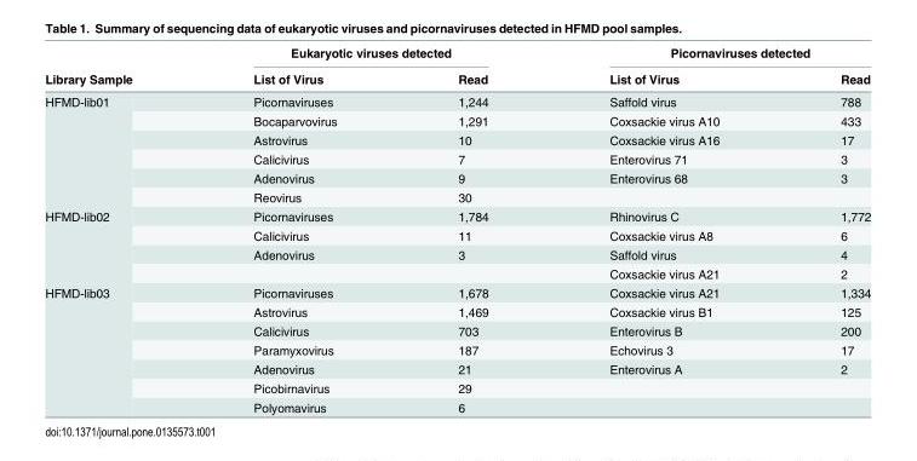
<table><thead><tr><td rowspan="2">Library Sample</td><td colspan="2">Eukaryotic viruses detected</td><td colspan="2">Picornaviruses detected</td></tr><tr><td>List of Virus</td><td>Read</td><td>List of Virus</td><td>Read</td></tr></thead><tbody><tr><td rowspan="6">HFMD-lib01</td><td>Picornaviruses</td><td>1,244</td><td>Saffold virus</td><td>788</td></tr><tr><td>Bocaparvovirus</td><td>1,291</td><td>Coxsackie virus A10</td><td>433</td></tr><tr><td>Astrovirus</td><td>10</td><td>Coxsackie virus A16</td><td>17</td></tr><tr><td>Calicivirus</td><td>7</td><td>Enterovirus 71</td><td>3</td></tr><tr><td>Adenovirus</td><td>9</td><td>Enterovirus 68</td><td>3</td></tr><tr><td>Reovirus</td><td>30</td><td></td><td></td></tr><tr><td rowspan="4">HFMD-lib02</td><td>Picornaviruses</td><td>1,784</td><td>Rhinovirus C</td><td>1,772</td></tr><tr><td>Calicivirus</td><td>11</td><td>Coxsackie virus A8</td><td>6</td></tr><tr><td>Adenovirus</td><td>3</td><td>Saffold virus</td><td>4</td></tr><tr><td></td><td></td><td>Coxsackie virus A21</td><td>2</td></tr><tr><td rowspan="7">HFMD-lib03</td><td>Picornaviruses</td><td>1,678</td><td>Coxsackie virus A21</td><td>1,334</td></tr><tr><td>Astrovirus</td><td>1,469</td><td>Coxsackie virus B1</td><td>125</td></tr><tr><td>Calicivirus</td><td>703</td><td>Enterovirus B</td><td>200</td></tr><tr><td>Paramyxovirus</td><td>187</td><td>Echovirus 3</td><td>17</td></tr><tr><td>Adenovirus</td><td>21</td><td>Enterovirus A</td><td>2</td></tr><tr><td>Picobirnavirus</td><td>29</td><td></td><td></td></tr><tr><td>Polyomavirus</td><td>6</td><td></td><td></td></tr></tbody></table>